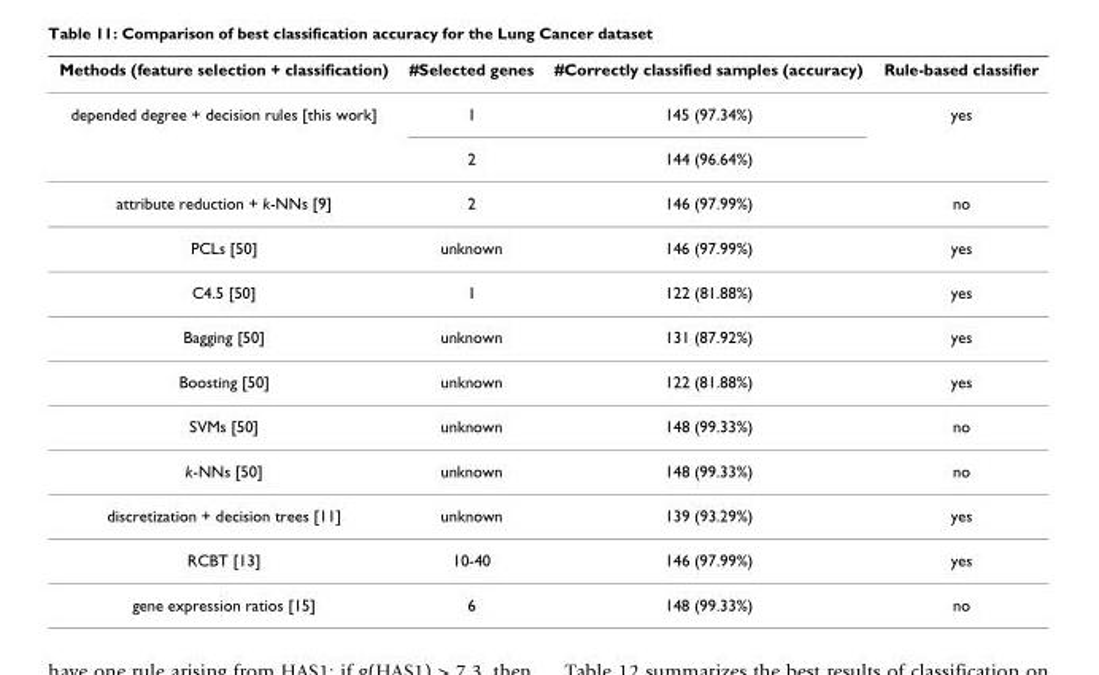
<table><thead><tr><td>Methods (feature selection + classification)</td><td>#Selected genes</td><td>#Correctly classified samples (accuracy)</td><td>Rule-based classifier</td></tr></thead><tbody><tr><td rowspan="2">depended degree + decision rules [this work]</td><td>1</td><td>145 (97.34%)</td><td>yes</td></tr><tr><td>2</td><td>144 (96.64%)</td><td></td></tr><tr><td>attribute reduction + k-NNs [9]</td><td>2</td><td>146 (97.99%)</td><td>no</td></tr><tr><td>PCLs [50]</td><td>unknown</td><td>146 (97.99%)</td><td>yes</td></tr><tr><td>C4.5 [50]</td><td>1</td><td>122 (81.88%)</td><td>yes</td></tr><tr><td>Bagging [50]</td><td>unknown</td><td>131 (87.92%)</td><td>yes</td></tr><tr><td>Boosting [50]</td><td>unknown</td><td>122 (81.88%)</td><td>yes</td></tr><tr><td>SVMs [50]</td><td>unknown</td><td>148 (99.33%)</td><td>no</td></tr><tr><td>k-NNs [50]</td><td>unknown</td><td>148 (99.33%)</td><td>no</td></tr><tr><td>discretization + decision trees [11]</td><td>unknown</td><td>139 (93.29%)</td><td>yes</td></tr><tr><td>RCBT [13]</td><td>10-40</td><td>146 (97.99%)</td><td>yes</td></tr><tr><td>gene expression ratios [15]</td><td>6</td><td>148 (99.33%)</td><td>no</td></tr></tbody></table>